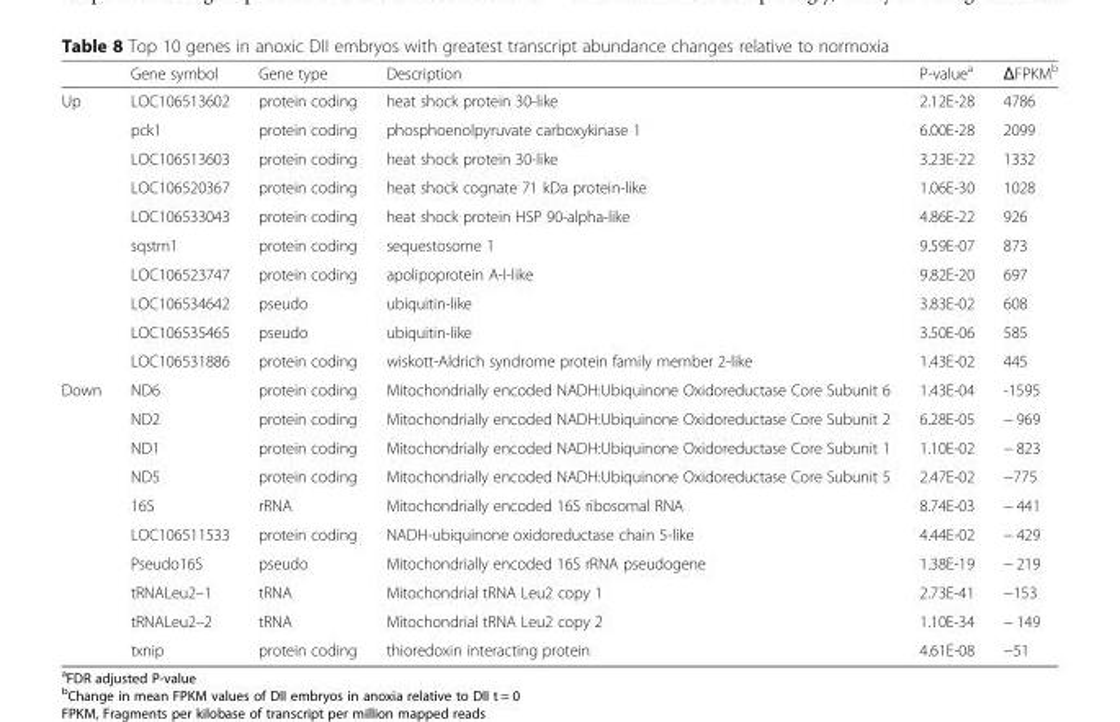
<table><thead><tr><td></td><td>Gene symbol</td><td>Gene type</td><td>Description</td><td>P-value<sup>a</sup></td><td>ΔFPKM<sup>b</sup></td></tr></thead><tbody><tr><td rowspan="10">Up</td><td>LOC106513602</td><td>protein coding</td><td>heat shock protein 30-like</td><td>2.12E-28</td><td>4786</td></tr><tr><td>pck1</td><td>protein coding</td><td>phosphoenolpyruvate carboxykinase 1</td><td>6.00E-28</td><td>2099</td></tr><tr><td>LOC106513603</td><td>protein coding</td><td>heat shock protein 30-like</td><td>3.23E-22</td><td>1332</td></tr><tr><td>LOC106520367</td><td>protein coding</td><td>heat shock cognate 71 kDa protein-like</td><td>1.06E-30</td><td>1028</td></tr><tr><td>LOC106533043</td><td>protein coding</td><td>heat shock protein HSP 90-alpha-like</td><td>4.86E-22</td><td>926</td></tr><tr><td>sqstm1</td><td>protein coding</td><td>sequestosome 1</td><td>9.59E-07</td><td>873</td></tr><tr><td>LOC106523747</td><td>protein coding</td><td>apolipoprotein A-I-like</td><td>9.82E-20</td><td>697</td></tr><tr><td>LOC106534642</td><td>pseudo</td><td>ubiquitin-like</td><td>3.83E-02</td><td>608</td></tr><tr><td>LOC106535465</td><td>pseudo</td><td>ubiquitin-like</td><td>3.50E-06</td><td>585</td></tr><tr><td>LOC106531886</td><td>protein coding</td><td>wiskott-Aldrich syndrome protein family member 2-like</td><td>1.43E-02</td><td>445</td></tr><tr><td rowspan="10">Down</td><td>ND6</td><td>protein coding</td><td>Mitochondrially encoded NADH:Ubiquinone Oxidoreductase Core Subunit 6</td><td>1.43E-04</td><td>-1595</td></tr><tr><td>ND2</td><td>protein coding</td><td>Mitochondrially encoded NADH:Ubiquinone Oxidoreductase Core Subunit 2</td><td>6.28E-05</td><td>− 969</td></tr><tr><td>ND1</td><td>protein coding</td><td>Mitochondrially encoded NADH:Ubiquinone Oxidoreductase Core Subunit 1</td><td>1.10E-02</td><td>− 823</td></tr><tr><td>ND5</td><td>protein coding</td><td>Mitochondrially encoded NADH:Ubiquinone Oxidoreductase Core Subunit 5</td><td>2.47E-02</td><td>−775</td></tr><tr><td>16S</td><td>rRNA</td><td>Mitochondrially encoded 16S ribosomal RNA</td><td>8.74E-03</td><td>− 441</td></tr><tr><td>LOC106511533</td><td>protein coding</td><td>NADH-ubiquinone oxidoreductase chain 5-like</td><td>4.44E-02</td><td>− 429</td></tr><tr><td>Pseudo16S</td><td>pseudo</td><td>Mitochondrially encoded 16S rRNA pseudogene</td><td>1.38E-19</td><td>− 219</td></tr><tr><td>tRNALeu2–1</td><td>tRNA</td><td>Mitochondrial tRNA Leu2 copy 1</td><td>2.73E-41</td><td>−153</td></tr><tr><td>tRNALeu2–2</td><td>tRNA</td><td>Mitochondrial tRNA Leu2 copy 2</td><td>1.10E-34</td><td>− 149</td></tr><tr><td>txnip</td><td>protein coding</td><td>thioredoxin interacting protein</td><td>4.61E-08</td><td>−51</td></tr></tbody></table>